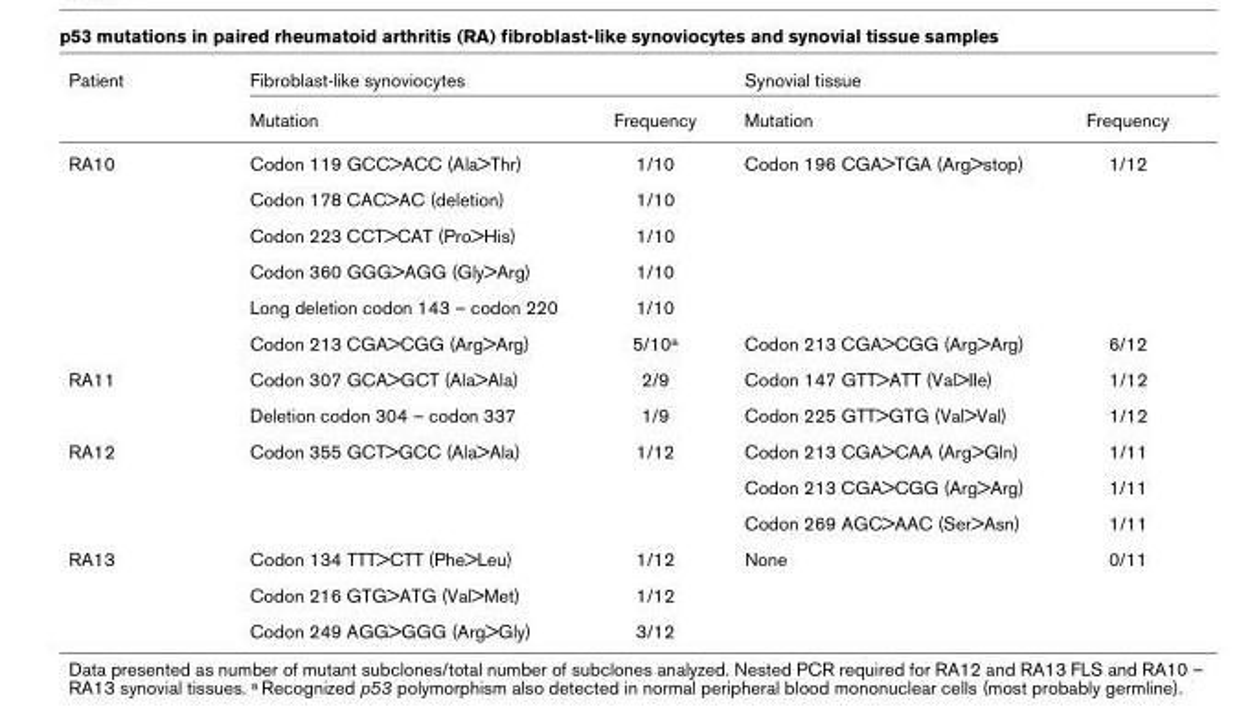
<table><thead><tr><td rowspan="2">Patient</td><td colspan="2">Fibroblast-like synoviocytes</td><td colspan="2">Synovial tissue</td></tr><tr><td>Mutation</td><td>Frequency</td><td>Mutation</td><td>Frequency</td></tr></thead><tbody><tr><td rowspan="6">RA10</td><td>Codon 119 GCC&gt;ACC (Ala&gt;Thr)</td><td>1/10</td><td>Codon 196 CGA&gt;TGA (Arg&gt;stop)</td><td>1/12</td></tr><tr><td>Codon 178 CAC&gt;AC (deletion)</td><td>1/10</td><td></td><td></td></tr><tr><td>Codon 223 CCT&gt;CAT (Pro&gt;His)</td><td>1/10</td><td></td><td></td></tr><tr><td>Codon 360 GGG&gt;AGG (Gly&gt;Arg)</td><td>1/10</td><td></td><td></td></tr><tr><td>Long deletion codon 143 – codon 220</td><td>1/10</td><td></td><td></td></tr><tr><td>Codon 213 CGA&gt;CGG (Arg&gt;Arg)</td><td>5/10a</td><td>Codon 213 CGA&gt;CGG (Arg&gt;Arg)</td><td>6/12</td></tr><tr><td rowspan="2">RA11</td><td>Codon 307 GCA&gt;GCT (Ala&gt;Ala)</td><td>2/9</td><td>Codon 147 GTT&gt;ATT (Val&gt;IIe)</td><td>1/12</td></tr><tr><td>Deletion codon 304 – codon 337</td><td>1/9</td><td>Codon 225 GTT&gt;GTG (Val&gt;Val)</td><td>1/12</td></tr><tr><td rowspan="3">RA12</td><td>Codon 355 GCT&gt;GCC (Ala&gt;Ala)</td><td>1/12</td><td>Codon 213 CGA&gt;CAA (Arg&gt;Gln)</td><td>1/11</td></tr><tr><td></td><td></td><td>Codon 213 CGA&gt;CGG (Arg&gt;Arg)</td><td>1/11</td></tr><tr><td></td><td></td><td>Codon 269 AGC&gt;AAC (Ser&gt;Asn)</td><td>1/11</td></tr><tr><td rowspan="3">RA13</td><td>Codon 134 TTT&gt;CTT (Phe&gt;Leu)</td><td>1/12</td><td>None</td><td>0/11</td></tr><tr><td>Codon 216 GTG&gt;ATG (Val&gt;Met)</td><td>1/12</td><td></td><td></td></tr><tr><td>Codon 249 AGG&gt;GGG (Arg&gt;Gly)</td><td>3/12</td><td></td><td></td></tr></tbody></table>